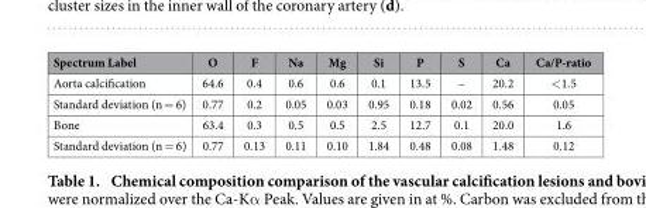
<table><thead><tr><td>Spectrum Label</td><td>O</td><td>F</td><td>Na</td><td>Mg</td><td>Si</td><td>P</td><td>S</td><td>Ca</td><td>Ca/P-ratio</td></tr></thead><tbody><tr><td>Aorta calcification</td><td>64.6</td><td>0.4</td><td>0.6</td><td>0.6</td><td>0.1</td><td>13.5</td><td>–</td><td>20.2</td><td>&lt; 1.5</td></tr><tr><td>Standard deviation (n = 6)</td><td>0.77</td><td>0.2</td><td>0.05</td><td>0.03</td><td>0.95</td><td>0.18</td><td>0.02</td><td>0.56</td><td>0.05</td></tr><tr><td>Bone</td><td>63.4</td><td>0.3</td><td>0.5</td><td>0.5</td><td>2.5</td><td>12.7</td><td>0.1</td><td>20.0</td><td>1.6</td></tr><tr><td>Standard deviation (n = 6)</td><td>0.77</td><td>0.13</td><td>0.11</td><td>0.10</td><td>1.84</td><td>0.48</td><td>0.08</td><td>1.48</td><td>0.12</td></tr></tbody></table>